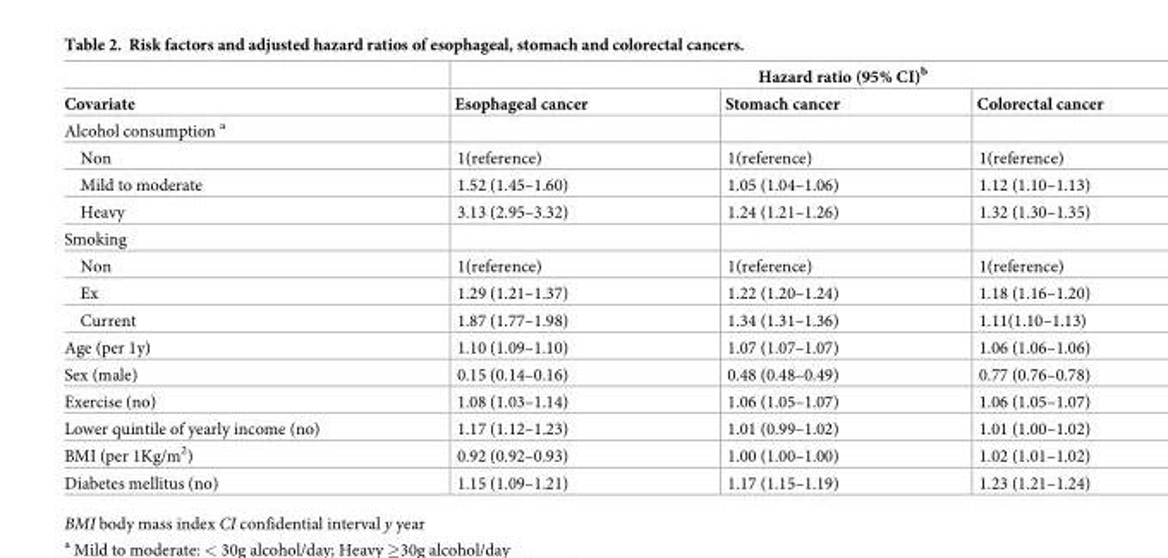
<table><thead><tr><td rowspan="2">Covariate</td><td colspan="3">Hazard ratio (95% CI)<sup>b</sup></td></tr><tr><td>Esophageal cancer</td><td>Stomach cancer</td><td>Colorectal cancer</td></tr></thead><tbody><tr><td colspan="4">Alcohol consumption <sup>a</sup></td></tr><tr><td>Non</td><td>1(reference)</td><td>1(reference)</td><td>1(reference)</td></tr><tr><td>Mild to moderate</td><td>1.52 (1.45–1.60)</td><td>1.05 (1.04–1.06)</td><td>1.12 (1.10–1.13)</td></tr><tr><td>Heavy</td><td>3.13 (2.95–3.32)</td><td>1.24 (1.21–1.26)</td><td>1.32 (1.30–1.35)</td></tr><tr><td colspan="4">Smoking</td></tr><tr><td>Non</td><td>1(reference)</td><td>1(reference)</td><td>1(reference)</td></tr><tr><td>Ex</td><td>1.29 (1.21–1.37)</td><td>1.22 (1.20–1.24)</td><td>1.18 (1.16–1.20)</td></tr><tr><td>Current</td><td>1.87 (1.77–1.98)</td><td>1.34 (1.31–1.36)</td><td>1.11(1.10–1.13)</td></tr><tr><td>Age (per 1y)</td><td>1.10 (1.09–1.10)</td><td>1.07 (1.07–1.07)</td><td>1.06 (1.06–1.06)</td></tr><tr><td>Sex (male)</td><td>0.15 (0.14–0.16)</td><td>0.48 (0.48–0.49)</td><td>0.77 (0.76–0.78)</td></tr><tr><td>Exercise (no)</td><td>1.08 (1.03–1.14)</td><td>1.06 (1.05–1.07)</td><td>1.06 (1.05–1.07)</td></tr><tr><td>Lower quintile of yearly income (no)</td><td>1.17 (1.12–1.23)</td><td>1.01 (0.99–1.02)</td><td>1.01 (1.00–1.02)</td></tr><tr><td>BMI (per 1Kg/m<sup>2</sup>)</td><td>0.92 (0.92–0.93)</td><td>1.00 (1.00–1.00)</td><td>1.02 (1.01–1.02)</td></tr><tr><td>Diabetes mellitus (no)</td><td>1.15 (1.09–1.21)</td><td>1.17 (1.15–1.19)</td><td>1.23 (1.21–1.24)</td></tr></tbody></table>